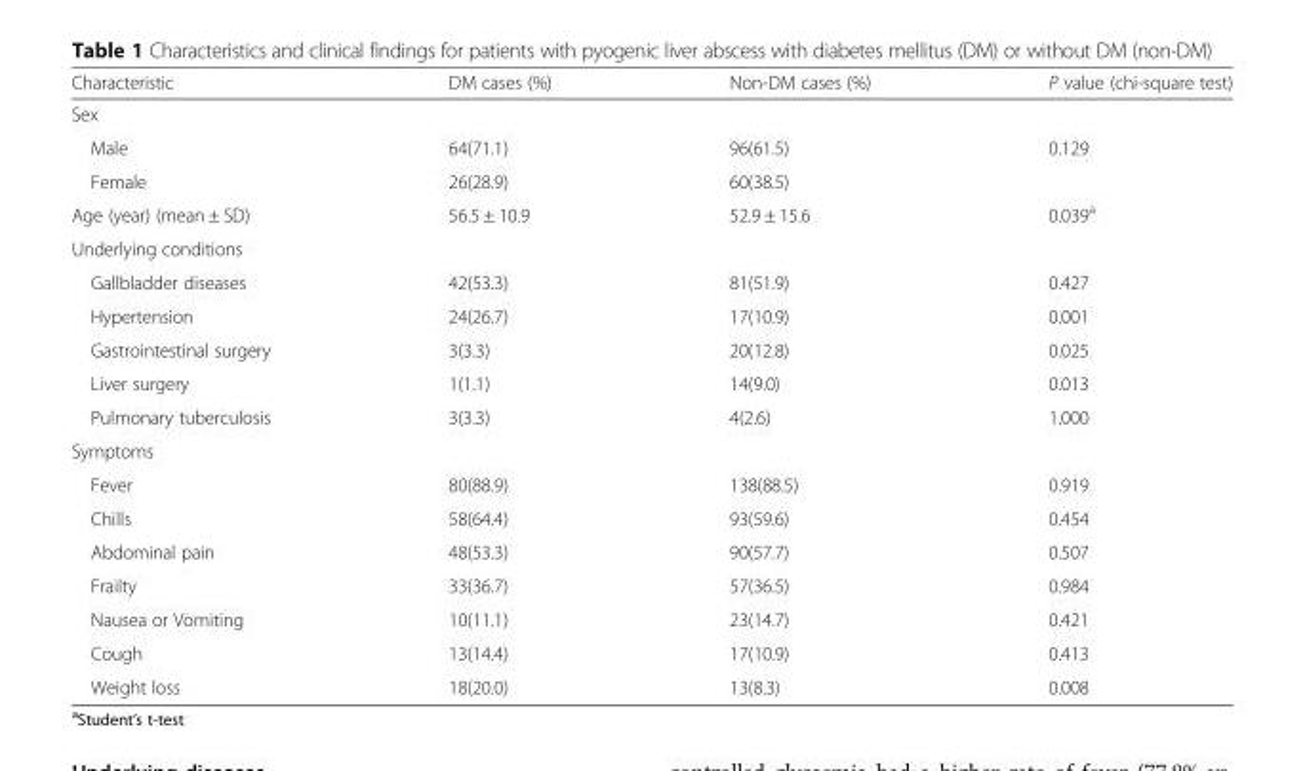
<table><thead><tr><td>Characteristic</td><td>DM cases (%)</td><td>Non-DM cases (%)</td><td>P value (chi-square test)</td></tr></thead><tbody><tr><td colspan="4">Sex</td></tr><tr><td>Male</td><td>64(71.1)</td><td>96(61.5)</td><td>0.129</td></tr><tr><td>Female</td><td>26(28.9)</td><td>60(38.5)</td><td></td></tr><tr><td>Age (year) (mean ± SD)</td><td>56.5 ± 10.9</td><td>52.9 ± 15.6</td><td>0.039<sup>a</sup></td></tr><tr><td colspan="4">Underlying conditions</td></tr><tr><td>Gallbladder diseases</td><td>42(53.3)</td><td>81(51.9)</td><td>0.427</td></tr><tr><td>Hypertension</td><td>24(26.7)</td><td>17(10.9)</td><td>0.001</td></tr><tr><td>Gastrointestinal surgery</td><td>3(3.3)</td><td>20(12.8)</td><td>0.025</td></tr><tr><td>Liver surgery</td><td>1(1.1)</td><td>14(9.0)</td><td>0.013</td></tr><tr><td>Pulmonary tuberculosis</td><td>3(3.3)</td><td>4(2.6)</td><td>1.000</td></tr><tr><td colspan="4">Symptoms</td></tr><tr><td>Fever</td><td>80(88.9)</td><td>138(88.5)</td><td>0.919</td></tr><tr><td>Chills</td><td>58(64.4)</td><td>93(59.6)</td><td>0.454</td></tr><tr><td>Abdominal pain</td><td>48(53.3)</td><td>90(57.7)</td><td>0.507</td></tr><tr><td>Frailty</td><td>33(36.7)</td><td>57(36.5)</td><td>0.984</td></tr><tr><td>Nausea or Vomiting</td><td>10(11.1)</td><td>23(14.7)</td><td>0.421</td></tr><tr><td>Cough</td><td>13(14.4)</td><td>17(10.9)</td><td>0.413</td></tr><tr><td>Weight loss</td><td>18(20.0)</td><td>13(8.3)</td><td>0.008</td></tr></tbody></table>